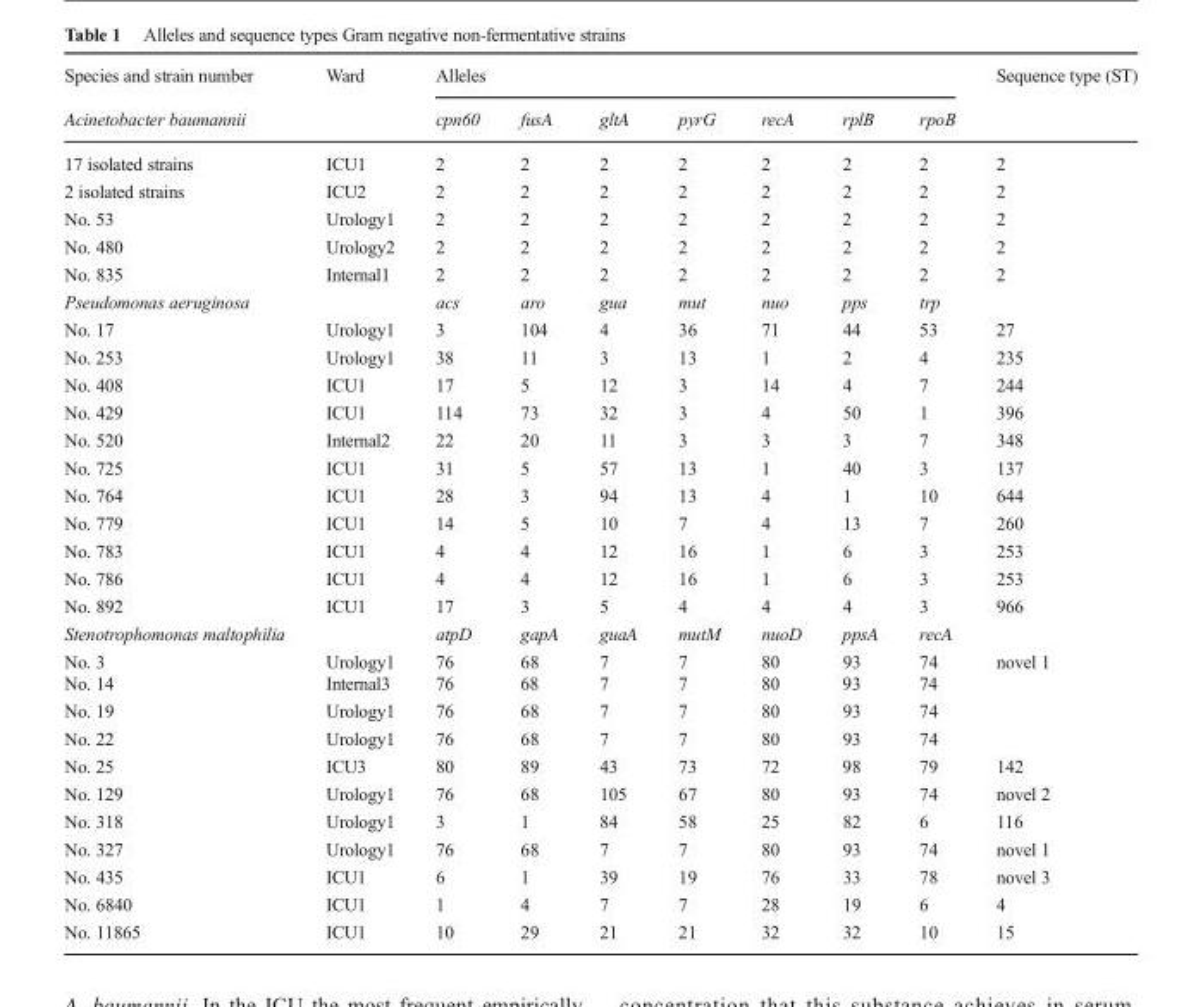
<table><thead><tr><td rowspan="2">Species and strain number Acinetobacter baumannii</td><td rowspan="2">Ward</td><td colspan="7">Alleles</td><td rowspan="2">Sequence type (ST)</td></tr><tr><td>cpn60</td><td>fusA</td><td>gltA</td><td>pyrG</td><td>recA</td><td>rplB</td><td>rpoB</td></tr></thead><tbody><tr><td>17 isolated strains</td><td>ICU1</td><td>2</td><td>2</td><td>2</td><td>2</td><td>2</td><td>2</td><td>2</td><td>2</td></tr><tr><td>2 isolated strains</td><td>ICU2</td><td>2</td><td>2</td><td>2</td><td>2</td><td>2</td><td>2</td><td>2</td><td>2</td></tr><tr><td>No. 53</td><td>Urology1</td><td>2</td><td>2</td><td>2</td><td>2</td><td>2</td><td>2</td><td>2</td><td>2</td></tr><tr><td>No. 480</td><td>Urology2</td><td>2</td><td>2</td><td>2</td><td>2</td><td>2</td><td>2</td><td>2</td><td>2</td></tr><tr><td>No. 835</td><td>Internal1</td><td>2</td><td>2</td><td>2</td><td>2</td><td>2</td><td>2</td><td>2</td><td>2</td></tr><tr><td>Pseudomonas aeruginosa</td><td></td><td>acs</td><td>aro</td><td>gua</td><td>mut</td><td>nuo</td><td>pps</td><td>trp</td><td></td></tr><tr><td>No. 17</td><td>Urology1</td><td>3</td><td>104</td><td>4</td><td>36</td><td>71</td><td>44</td><td>53</td><td>27</td></tr><tr><td>No. 253</td><td>Urology1</td><td>38</td><td>11</td><td>3</td><td>13</td><td>1</td><td>2</td><td>4</td><td>235</td></tr><tr><td>No. 408</td><td>ICU1</td><td>17</td><td>5</td><td>12</td><td>3</td><td>14</td><td>4</td><td>7</td><td>244</td></tr><tr><td>No. 429</td><td>ICU1</td><td>114</td><td>73</td><td>32</td><td>3</td><td>4</td><td>50</td><td>1</td><td>396</td></tr><tr><td>No. 520</td><td>Internal2</td><td>22</td><td>20</td><td>11</td><td>3</td><td>3</td><td>3</td><td>7</td><td>348</td></tr><tr><td>No. 725</td><td>ICU1</td><td>31</td><td>5</td><td>57</td><td>13</td><td>1</td><td>40</td><td>3</td><td>137</td></tr><tr><td>No. 764</td><td>ICU1</td><td>28</td><td>3</td><td>94</td><td>13</td><td>4</td><td>1</td><td>10</td><td>644</td></tr><tr><td>No. 779</td><td>ICU1</td><td>14</td><td>5</td><td>10</td><td>7</td><td>4</td><td>13</td><td>7</td><td>260</td></tr><tr><td>No. 783</td><td>ICU1</td><td>4</td><td>4</td><td>12</td><td>16</td><td>1</td><td>6</td><td>3</td><td>253</td></tr><tr><td>No. 786</td><td>ICU1</td><td>4</td><td>4</td><td>12</td><td>16</td><td>1</td><td>6</td><td>3</td><td>253</td></tr><tr><td>No. 892</td><td>ICU1</td><td>17</td><td>3</td><td>5</td><td>4</td><td>4</td><td>4</td><td>3</td><td>966</td></tr><tr><td>Stenotrophomonas maltophilia</td><td></td><td>atpD</td><td>gapA</td><td>guaA</td><td>mutM</td><td>nuoD</td><td>ppsA</td><td>recA</td><td></td></tr><tr><td>No. 3</td><td>Urology1</td><td>76</td><td>68</td><td>7</td><td>7</td><td>80</td><td>93</td><td>74</td><td rowspan="4">novel 1</td></tr><tr><td>No. 14</td><td>Internal3</td><td>76</td><td>68</td><td>7</td><td>7</td><td>80</td><td>93</td><td>74</td></tr><tr><td>No. 19</td><td>Urology1</td><td>76</td><td>68</td><td>7</td><td>7</td><td>80</td><td>93</td><td>74</td></tr><tr><td>No. 22</td><td>Urology1</td><td>76</td><td>68</td><td>7</td><td>7</td><td>80</td><td>93</td><td>74</td></tr><tr><td>No. 25</td><td>ICU3</td><td>80</td><td>89</td><td>43</td><td>73</td><td>72</td><td>98</td><td>79</td><td>142</td></tr><tr><td>No. 129</td><td>Urology1</td><td>76</td><td>68</td><td>105</td><td>67</td><td>80</td><td>93</td><td>74</td><td>novel 2</td></tr><tr><td>No. 318</td><td>Urology1</td><td>3</td><td>1</td><td>84</td><td>58</td><td>25</td><td>82</td><td>6</td><td>116</td></tr><tr><td>No. 327</td><td>Urology1</td><td>76</td><td>68</td><td>7</td><td>7</td><td>80</td><td>93</td><td>74</td><td>novel 1</td></tr><tr><td>No. 435</td><td>ICU1</td><td>6</td><td>1</td><td>39</td><td>19</td><td>76</td><td>33</td><td>78</td><td>novel 3</td></tr><tr><td>No. 6840</td><td>ICU1</td><td>1</td><td>4</td><td>7</td><td>7</td><td>28</td><td>19</td><td>6</td><td>4</td></tr><tr><td>No. 11865</td><td>ICU1</td><td>10</td><td>29</td><td>21</td><td>21</td><td>32</td><td>32</td><td>10</td><td>15</td></tr></tbody></table>